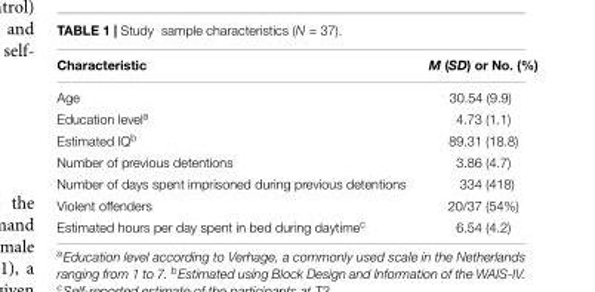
<table><thead><tr><td>Characteristic</td><td>M (SD) or No. (%)</td></tr></thead><tbody><tr><td>Age</td><td>30.54 (9.9)</td></tr><tr><td>Education level<sup>a</sup></td><td>4.73 (1.1)</td></tr><tr><td>Estimated IQ<sup>b</sup></td><td>89.31 (18.8)</td></tr><tr><td>Number of previous detentions</td><td>3.86 (4.7)</td></tr><tr><td>Number of days spent imprisoned during previous detentions</td><td>334 (418)</td></tr><tr><td>Violent offenders</td><td>20/37 (54%)</td></tr><tr><td>Estimated hours per day spent in bed during daytime<sup>c</sup></td><td>6.54 (4.2)</td></tr></tbody></table>